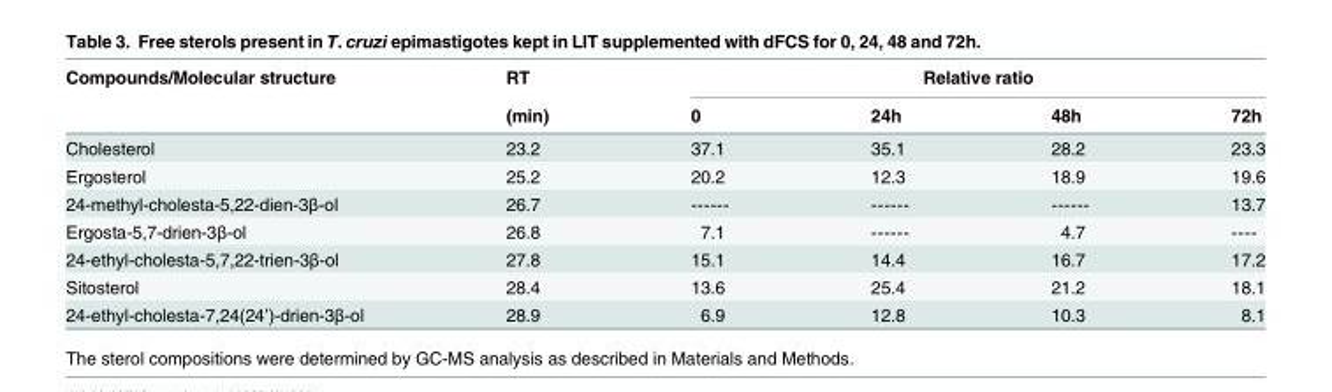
<table><thead><tr><td rowspan="2">Compounds/Molecular structure</td><td rowspan="2">RT (min)</td><td colspan="4">Relative ratio</td></tr><tr><td>0</td><td>24h</td><td>48h</td><td>72h</td></tr></thead><tbody><tr><td>Cholesterol</td><td>23.2</td><td>37.1</td><td>35.1</td><td>28.2</td><td>23.3</td></tr><tr><td>Ergosterol</td><td>25.2</td><td>20.2</td><td>12.3</td><td>18.9</td><td>19.6</td></tr><tr><td>24-methyl-cholesta-5,22-dien-3β-ol</td><td>26.7</td><td>------</td><td>------</td><td>------</td><td>13.7</td></tr><tr><td>Ergosta-5,7-drien-3β-ol</td><td>26.8</td><td>7.1</td><td>------</td><td>4.7</td><td>----</td></tr><tr><td>24-ethyl-cholesta-5,7,22-trien-3β-ol</td><td>27.8</td><td>15.1</td><td>14.4</td><td>16.7</td><td>17.2</td></tr><tr><td>Sitosterol</td><td>28.4</td><td>13.6</td><td>25.4</td><td>21.2</td><td>18.1</td></tr><tr><td>24-ethyl-cholesta-7,24(24’)-drien-3β-ol</td><td>28.9</td><td>6.9</td><td>12.8</td><td>10.3</td><td>8.1</td></tr></tbody></table>